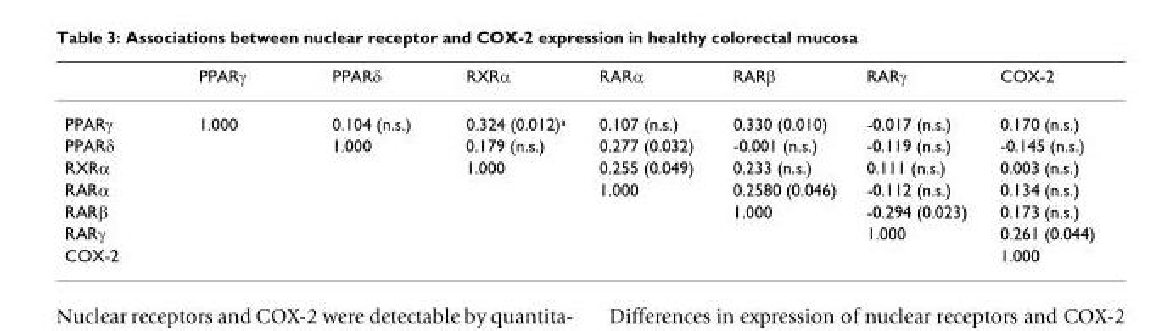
<table><thead><tr><td></td><td>PPARγ</td><td>PPARδ</td><td>RXRα</td><td>RARα</td><td>RARβ</td><td>RARγ</td><td>COX-2</td></tr></thead><tbody><tr><td>PPARγ</td><td>1.000</td><td>0.104 (n.s.)</td><td>0.324 (0.012)<sup>a</sup></td><td>0.107 (n.s.)</td><td>0.330 (0.010)</td><td>-0.017 (n.s.)</td><td>0.170 (n.s.)</td></tr><tr><td>PPARδ</td><td></td><td>1.000</td><td>0.179 (n.s.)</td><td>0.277 (0.032)</td><td>-0.001 (n.s.)</td><td>-0.119 (n.s.)</td><td>-0.145 (n.s.)</td></tr><tr><td>RXRα</td><td></td><td></td><td>1.000</td><td>0.255 (0.049)</td><td>0.233 (n.s.)</td><td>0.111 (n.s.)</td><td>0.003 (n.s.)</td></tr><tr><td>RARα</td><td></td><td></td><td></td><td>1.000</td><td>0.2580 (0.046)</td><td>-0.112 (n.s.)</td><td>0.134 (n.s.)</td></tr><tr><td>RARβ</td><td></td><td></td><td></td><td></td><td>1.000</td><td>-0.294 (0.023)</td><td>0.173 (n.s.)</td></tr><tr><td>RARγ</td><td></td><td></td><td></td><td></td><td></td><td>1.000</td><td>0.261 (0.044)</td></tr><tr><td>COX-2</td><td></td><td></td><td></td><td></td><td></td><td></td><td>1.000</td></tr></tbody></table>